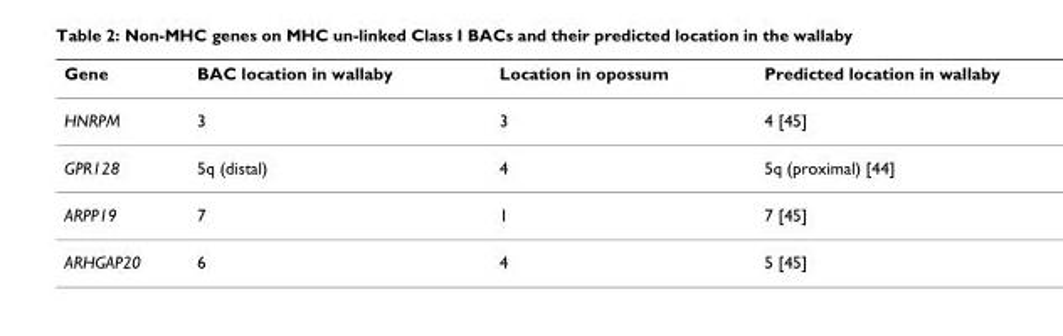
<table><thead><tr><td>Gene</td><td>BAC location in wallaby</td><td>Location in opossum</td><td>Predicted location in wallaby</td></tr></thead><tbody><tr><td>HNRPM</td><td>3</td><td>3</td><td>4 [45]</td></tr><tr><td>GPR128</td><td>5q (distal)</td><td>4</td><td>5q (proximal) [44]</td></tr><tr><td>ARPP19</td><td>7</td><td>1</td><td>7 [45]</td></tr><tr><td>ARHGAP20</td><td>6</td><td>4</td><td>5 [45]</td></tr></tbody></table>